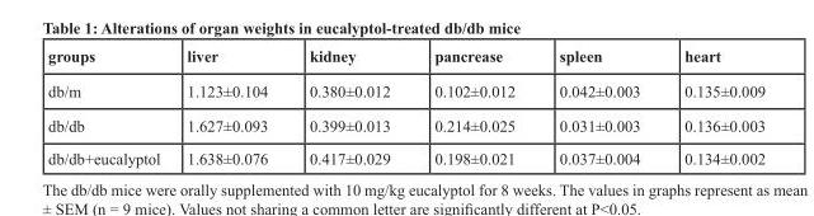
<table><thead><tr><td>groups</td><td>liver</td><td>kidney</td><td>pancrease</td><td>spleen</td><td>heart</td></tr></thead><tbody><tr><td>db/m</td><td>1.123±0.104</td><td>0.380±0.012</td><td>0.102±0.012</td><td>0.042±0.003</td><td>0.135±0.009</td></tr><tr><td>db/db</td><td>1.627±0.093</td><td>0.399±0.013</td><td>0.214±0.025</td><td>0.031±0.003</td><td>0.136±0.003</td></tr><tr><td>db/db+eucalyptol</td><td>1.638±0.076</td><td>0.417±0.029</td><td>0.198±0.021</td><td>0.037±0.004</td><td>0.134±0.002</td></tr></tbody></table>